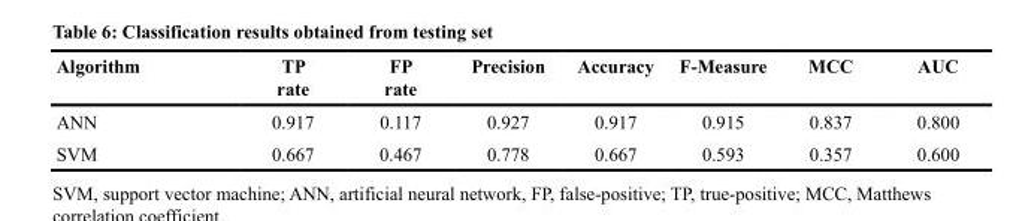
<table><thead><tr><td>Algorithm</td><td>TP rate</td><td>FP rate</td><td>Precision</td><td>Accuracy</td><td>F-Measure</td><td>MCC</td><td>AUC</td></tr></thead><tbody><tr><td>ANN</td><td>0.917</td><td>0.117</td><td>0.927</td><td>0.917</td><td>0.915</td><td>0.837</td><td>0.800</td></tr><tr><td>SVM</td><td>0.667</td><td>0.467</td><td>0.778</td><td>0.667</td><td>0.593</td><td>0.357</td><td>0.600</td></tr></tbody></table>